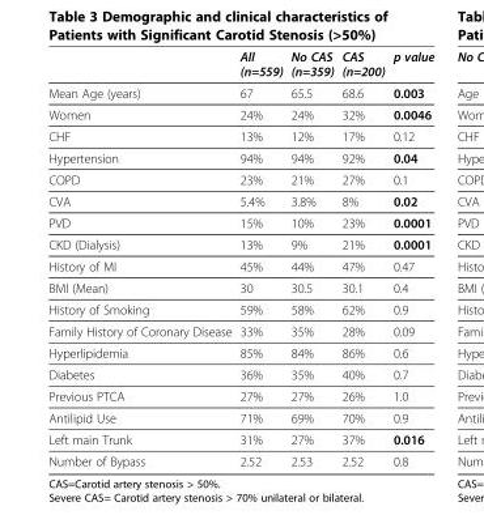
<table><thead><tr><td></td><td>All (n=559)</td><td>No CAS (n=359)</td><td>CAS (n=200)</td><td>p value</td></tr></thead><tbody><tr><td>Mean Age (years)</td><td>67</td><td>65.5</td><td>68.6</td><td>0.003</td></tr><tr><td>Women</td><td>24%</td><td>24%</td><td>32%</td><td>0.0046</td></tr><tr><td>CHF</td><td>13%</td><td>12%</td><td>17%</td><td>0.12</td></tr><tr><td>Hypertension</td><td>94%</td><td>94%</td><td>92%</td><td>0.04</td></tr><tr><td>COPD</td><td>23%</td><td>21%</td><td>27%</td><td>0.1</td></tr><tr><td>CVA</td><td>5.4%</td><td>3.8%</td><td>8%</td><td>0.02</td></tr><tr><td>PVD</td><td>15%</td><td>10%</td><td>23%</td><td>0.0001</td></tr><tr><td>CKD (Dialysis)</td><td>13%</td><td>9%</td><td>21%</td><td>0.0001</td></tr><tr><td>History of MI</td><td>45%</td><td>44%</td><td>47%</td><td>0.47</td></tr><tr><td>BMI (Mean)</td><td>30</td><td>30.5</td><td>30.1</td><td>0.4</td></tr><tr><td>History of Smoking</td><td>59%</td><td>58%</td><td>62%</td><td>0.9</td></tr><tr><td>Family History of Coronary Disease</td><td>33%</td><td>35%</td><td>28%</td><td>0.09</td></tr><tr><td>Hyperlipidemia</td><td>85%</td><td>84%</td><td>86%</td><td>0.6</td></tr><tr><td>Diabetes</td><td>36%</td><td>35%</td><td>40%</td><td>0.7</td></tr><tr><td>Previous PTCA</td><td>27%</td><td>27%</td><td>26%</td><td>1.0</td></tr><tr><td>Antilipid Use</td><td>71%</td><td>69%</td><td>70%</td><td>0.9</td></tr><tr><td>Left main Trunk</td><td>31%</td><td>27%</td><td>37%</td><td>0.016</td></tr><tr><td>Number of Bypass</td><td>2.52</td><td>2.53</td><td>2.52</td><td>0.8</td></tr></tbody></table>